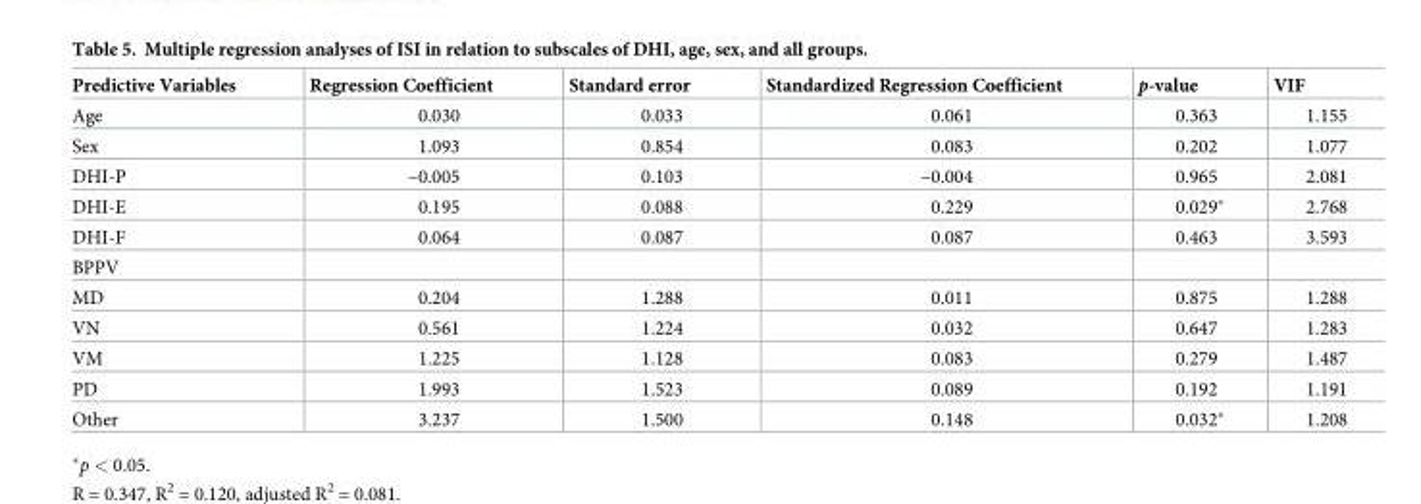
<table><thead><tr><td>Predictive Variables</td><td>Regression Coefficient</td><td>Standard error</td><td>Standardized Regression Coefficient</td><td>p-value</td><td>VIF</td></tr></thead><tbody><tr><td>Age</td><td>0.030</td><td>0.033</td><td>0.061</td><td>0.363</td><td>1.155</td></tr><tr><td>Sex</td><td>1.093</td><td>0.854</td><td>0.083</td><td>0.202</td><td>1.077</td></tr><tr><td>DHI-P</td><td>–0.005</td><td>0.103</td><td>–0.004</td><td>0.965</td><td>2.081</td></tr><tr><td>DHI-E</td><td>0.195</td><td>0.088</td><td>0.229</td><td>0.029*</td><td>2.768</td></tr><tr><td>DHI-F</td><td>0.064</td><td>0.087</td><td>0.087</td><td>0.463</td><td>3.593</td></tr><tr><td colspan="6">BPPV</td></tr><tr><td>MD</td><td>0.204</td><td>1.288</td><td>0.011</td><td>0.875</td><td>1.288</td></tr><tr><td>VN</td><td>0.561</td><td>1.224</td><td>0.032</td><td>0.647</td><td>1.283</td></tr><tr><td>VM</td><td>1.225</td><td>1.128</td><td>0.083</td><td>0.279</td><td>1.487</td></tr><tr><td>PD</td><td>1.993</td><td>1.523</td><td>0.089</td><td>0.192</td><td>1.191</td></tr><tr><td>Other</td><td>3.237</td><td>1.500</td><td>0.148</td><td>0.032*</td><td>1.208</td></tr></tbody></table>